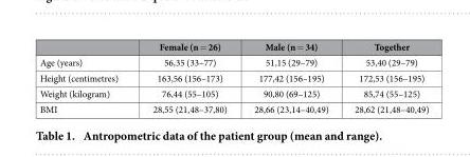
<table><thead><tr><td></td><td>Female (n = 26)</td><td>Male (n = 34)</td><td>Together</td></tr></thead><tbody><tr><td>Age (years)</td><td>56,35 (33–77)</td><td>51,15 (29–79)</td><td>53,40 (29–79)</td></tr><tr><td>Height (centimetres)</td><td>163,56 (156–173)</td><td>177,42 (156–195)</td><td>172,53 (156–195)</td></tr><tr><td>Weight (kilogram)</td><td>76,44 (55–105)</td><td>90,80 (69–125)</td><td>85,74 (55–125)</td></tr><tr><td>BMI</td><td>28,55 (21,48–37,80)</td><td>28,66 (23,14–40,49)</td><td>28,62 (21,48–40,49)</td></tr></tbody></table>